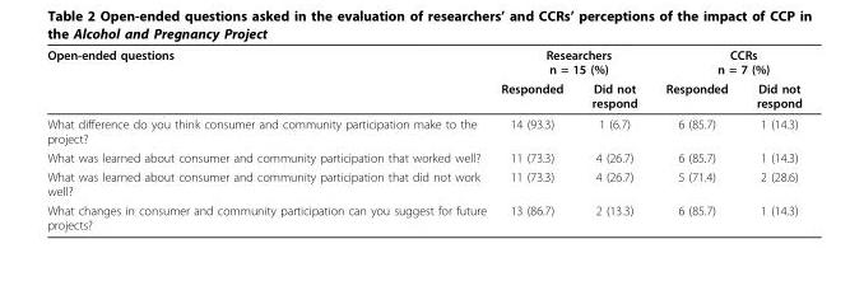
<table><thead><tr><td rowspan="2">Open-ended questions</td><td colspan="2">Researchers n = 15 (%)</td><td colspan="2">CCRs n = 7 (%)</td></tr><tr><td>Responded</td><td>Did not respond</td><td>Responded</td><td>Did not respond</td></tr></thead><tbody><tr><td>What difference do you think consumer and community participation make to the project?</td><td>14 (93.3)</td><td>1 (6.7)</td><td>6 (85.7)</td><td>1 (14.3)</td></tr><tr><td>What was learned about consumer and community participation that worked well?</td><td>11 (73.3)</td><td>4 (26.7)</td><td>6 (85.7)</td><td>1 (14.3)</td></tr><tr><td>What was learned about consumer and community participation that did not work well?</td><td>11 (73.3)</td><td>4 (26.7)</td><td>5 (71.4)</td><td>2 (28.6)</td></tr><tr><td>What changes in consumer and community participation can you suggest for future projects?</td><td>13 (86.7)</td><td>2 (13.3)</td><td>6 (85.7)</td><td>1 (14.3)</td></tr></tbody></table>